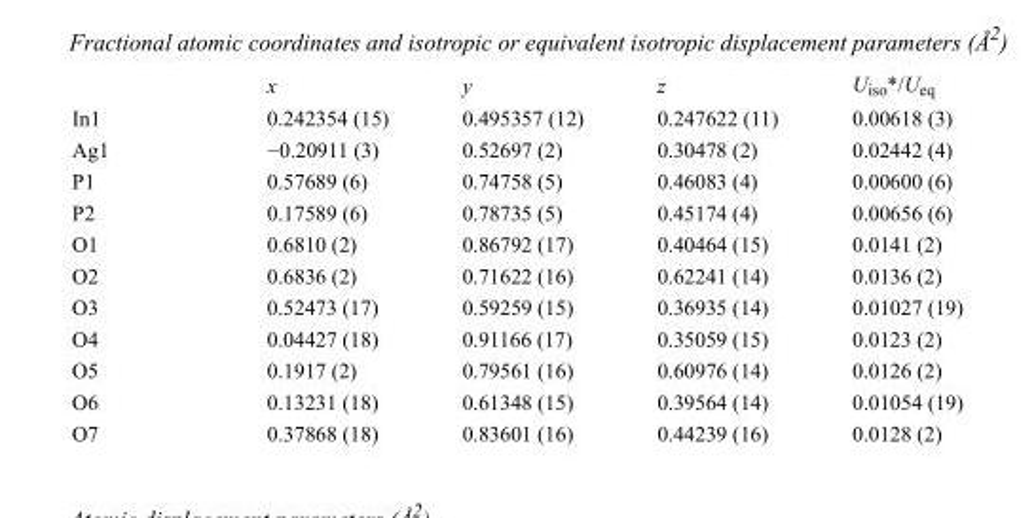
<table><thead><tr><td></td><td>x</td><td>y</td><td>z</td><td>U<sub>iso</sub>*/U<sub>eq</sub></td></tr></thead><tbody><tr><td>In1</td><td>0.242354 (15)</td><td>0.495357 (12)</td><td>0.247622 (11)</td><td>0.00618 (3)</td></tr><tr><td>Ag1</td><td>−0.20911 (3)</td><td>0.52697 (2)</td><td>0.30478 (2)</td><td>0.02442 (4)</td></tr><tr><td>P1</td><td>0.57689 (6)</td><td>0.74758 (5)</td><td>0.46083 (4)</td><td>0.00600 (6)</td></tr><tr><td>P2</td><td>0.17589 (6)</td><td>0.78735 (5)</td><td>0.45174 (4)</td><td>0.00656 (6)</td></tr><tr><td>O1</td><td>0.6810 (2)</td><td>0.86792 (17)</td><td>0.40464 (15)</td><td>0.0141 (2)</td></tr><tr><td>O2</td><td>0.6836 (2)</td><td>0.71622 (16)</td><td>0.62241 (14)</td><td>0.0136 (2)</td></tr><tr><td>O3</td><td>0.52473 (17)</td><td>0.59259 (15)</td><td>0.36935 (14)</td><td>0.01027 (19)</td></tr><tr><td>O4</td><td>0.04427 (18)</td><td>0.91166 (17)</td><td>0.35059 (15)</td><td>0.0123 (2)</td></tr><tr><td>O5</td><td>0.1917 (2)</td><td>0.79561 (16)</td><td>0.60976 (14)</td><td>0.0126 (2)</td></tr><tr><td>O6</td><td>0.13231 (18)</td><td>0.61348 (15)</td><td>0.39564 (14)</td><td>0.01054 (19)</td></tr><tr><td>O7</td><td>0.37868 (18)</td><td>0.83601 (16)</td><td>0.44239 (16)</td><td>0.0128 (2)</td></tr></tbody></table>